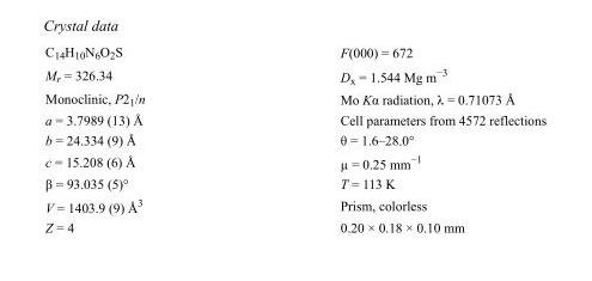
<table><tbody><tr><td>C<sub>14</sub>H<sub>10</sub>N<sub>6</sub>O<sub>2</sub>S</td><td>F(000) = 672</td></tr><tr><td>M<sub>r</sub> = 326.34</td><td>D<sub>x</sub> = 1.544 Mg m<sup>−3</sup></td></tr><tr><td>Monoclinic, P2<sub>1</sub>/n</td><td>Mo Kα radiation, λ = 0.71073 Å</td></tr><tr><td>a = 3.7989 (13) Å</td><td>Cell parameters from 4572 reflections</td></tr><tr><td>b = 24.334 (9) Å</td><td>θ = 1.6–28.0°</td></tr><tr><td>c = 15.208 (6) Å</td><td>µ = 0.25 mm<sup>−1</sup></td></tr><tr><td>β = 93.035 (5)°</td><td>T = 113 K</td></tr><tr><td>V = 1403.9 (9) Å<sup>3</sup></td><td>Prism, colorless</td></tr><tr><td>Z = 4</td><td>0.20 × 0.18 × 0.10 mm</td></tr></tbody></table>